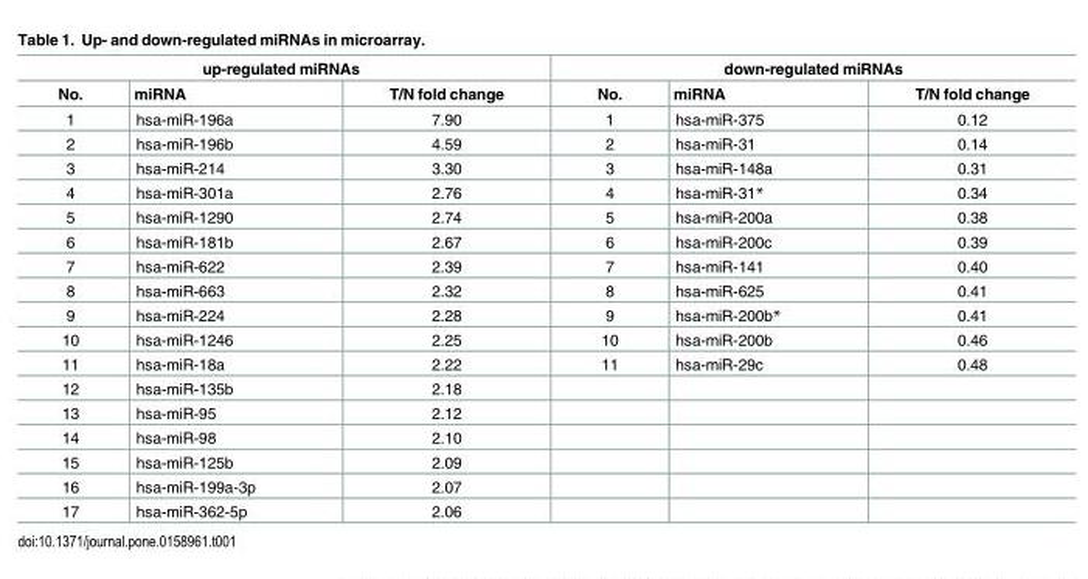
<table><thead><tr><td colspan="3">up-regulated miRNAs</td><td colspan="3">down-regulated miRNAs</td></tr><tr><td>No.</td><td>miRNA</td><td>T/N fold change</td><td>No.</td><td>miRNA</td><td>T/N fold change</td></tr></thead><tbody><tr><td>1</td><td>hsa-miR-196a</td><td>7.90</td><td>1</td><td>hsa-miR-375</td><td>0.12</td></tr><tr><td>2</td><td>hsa-miR-196b</td><td>4.59</td><td>2</td><td>hsa-miR-31</td><td>0.14</td></tr><tr><td>3</td><td>hsa-miR-214</td><td>3.30</td><td>3</td><td>hsa-miR-148a</td><td>0.31</td></tr><tr><td>4</td><td>hsa-miR-301a</td><td>2.76</td><td>4</td><td>hsa-miR-31*</td><td>0.34</td></tr><tr><td>5</td><td>hsa-miR-1290</td><td>2.74</td><td>5</td><td>hsa-miR-200a</td><td>0.38</td></tr><tr><td>6</td><td>hsa-miR-181b</td><td>2.67</td><td>6</td><td>hsa-miR-200c</td><td>0.39</td></tr><tr><td>7</td><td>hsa-miR-622</td><td>2.39</td><td>7</td><td>hsa-miR-141</td><td>0.40</td></tr><tr><td>8</td><td>hsa-miR-663</td><td>2.32</td><td>8</td><td>hsa-miR-625</td><td>0.41</td></tr><tr><td>9</td><td>hsa-miR-224</td><td>2.28</td><td>9</td><td>hsa-miR-200b*</td><td>0.41</td></tr><tr><td>10</td><td>hsa-miR-1246</td><td>2.25</td><td>10</td><td>hsa-miR-200b</td><td>0.46</td></tr><tr><td>11</td><td>hsa-miR-18a</td><td>2.22</td><td>11</td><td>hsa-miR-29c</td><td>0.48</td></tr><tr><td>12</td><td>hsa-miR-135b</td><td>2.18</td><td></td><td></td><td></td></tr><tr><td>13</td><td>hsa-miR-95</td><td>2.12</td><td></td><td></td><td></td></tr><tr><td>14</td><td>hsa-miR-98</td><td>2.10</td><td></td><td></td><td></td></tr><tr><td>15</td><td>hsa-miR-125b</td><td>2.09</td><td></td><td></td><td></td></tr><tr><td>16</td><td>hsa-miR-199a-3p</td><td>2.07</td><td></td><td></td><td></td></tr><tr><td>17</td><td>hsa-miR-362-5p</td><td>2.06</td><td></td><td></td><td></td></tr></tbody></table>